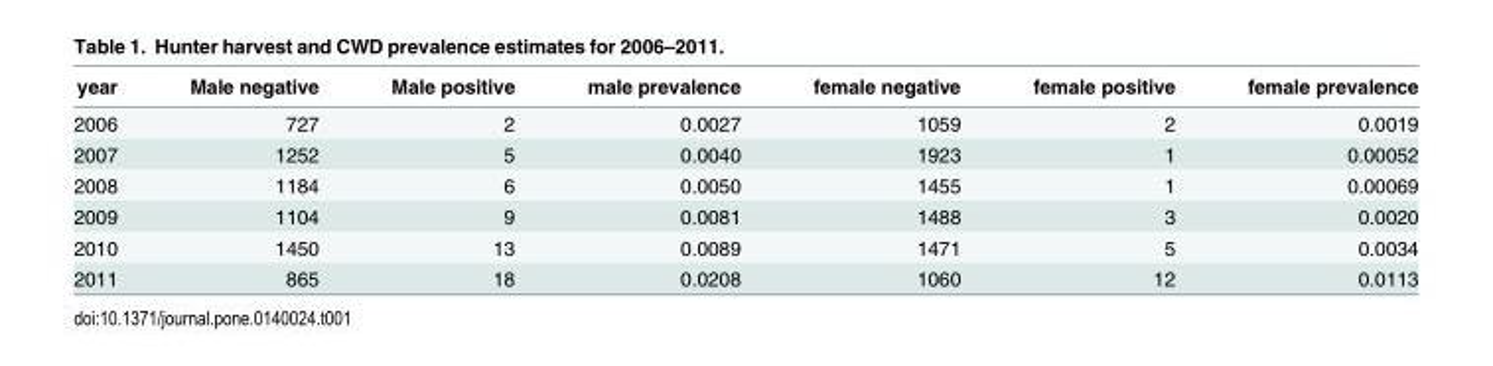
<table><thead><tr><td>year</td><td>Male negative</td><td>Male positive</td><td>male prevalence</td><td>female negative</td><td>female positive</td><td>female prevalence</td></tr></thead><tbody><tr><td>2006</td><td>727</td><td>2</td><td>0.0027</td><td>1059</td><td>2</td><td>0.0019</td></tr><tr><td>2007</td><td>1252</td><td>5</td><td>0.0040</td><td>1923</td><td>1</td><td>0.00052</td></tr><tr><td>2008</td><td>1184</td><td>6</td><td>0.0050</td><td>1455</td><td>1</td><td>0.00069</td></tr><tr><td>2009</td><td>1104</td><td>9</td><td>0.0081</td><td>1488</td><td>3</td><td>0.0020</td></tr><tr><td>2010</td><td>1450</td><td>13</td><td>0.0089</td><td>1471</td><td>5</td><td>0.0034</td></tr><tr><td>2011</td><td>865</td><td>18</td><td>0.0208</td><td>1060</td><td>12</td><td>0.0113</td></tr></tbody></table>